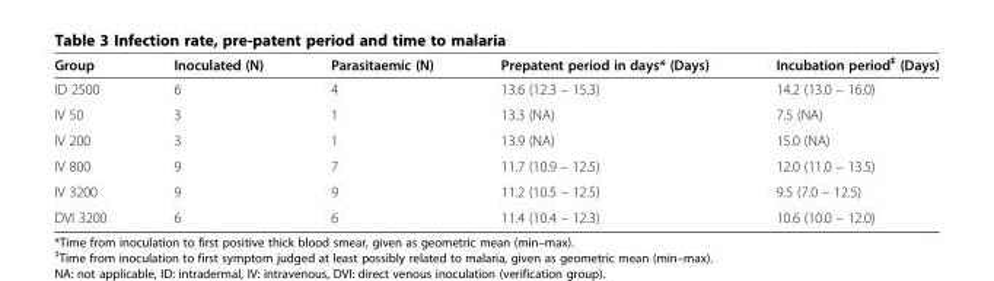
<table><thead><tr><td>Group</td><td>Inoculated (N)</td><td>Parasitaemic (N)</td><td>Prepatent period in days* (Days)</td><td>Incubation period<sup>‡</sup> (Days)</td></tr></thead><tbody><tr><td>ID 2500</td><td>6</td><td>4</td><td>13.6 (12.3 – 15.3)</td><td>14.2 (13.0 – 16.0)</td></tr><tr><td>IV 50</td><td>3</td><td>1</td><td>13.3 (NA)</td><td>7.5 (NA)</td></tr><tr><td>IV 200</td><td>3</td><td>1</td><td>13.9 (NA)</td><td>15.0 (NA)</td></tr><tr><td>IV 800</td><td>9</td><td>7</td><td>11.7 (10.9 – 12.5)</td><td>12.0 (11.0 – 13.5)</td></tr><tr><td>IV 3200</td><td>9</td><td>9</td><td>11.2 (10.5 – 12.5)</td><td>9.5 (7.0 – 12.5)</td></tr><tr><td>DVI 3200</td><td>6</td><td>6</td><td>11.4 (10.4 – 12.3)</td><td>10.6 (10.0 – 12.0)</td></tr></tbody></table>